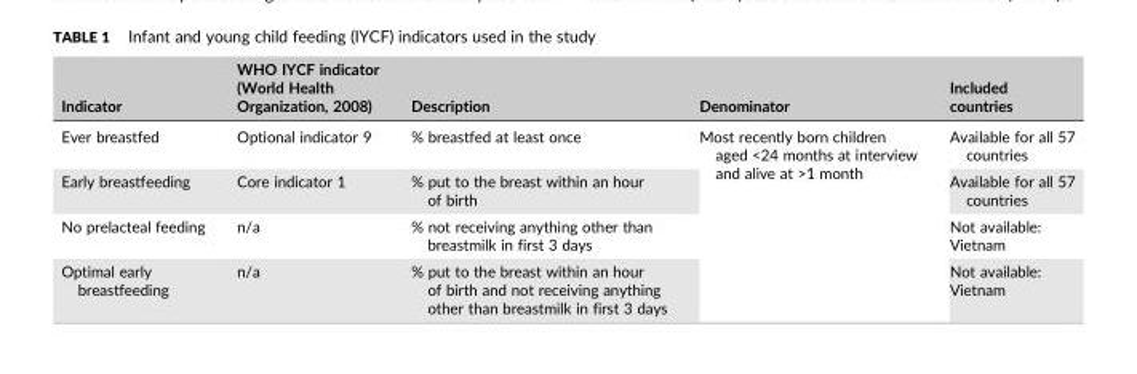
<table><thead><tr><td>Indicator</td><td>WHO IYCF indicator (World Health Organization, 2008)</td><td>Description</td><td>Denominator</td><td>Included countries</td></tr></thead><tbody><tr><td>Ever breastfed</td><td>Optional indicator 9</td><td>% breastfed at least once</td><td rowspan="4">Most recently born children aged &lt;24 months at interview and alive at &gt;1 month</td><td>Available for all 57 countries</td></tr><tr><td>Early breastfeeding</td><td>Core indicator 1</td><td>% put to the breast within an hour of birth</td><td>Available for all 57 countries</td></tr><tr><td>No prelacteal feeding</td><td>n/a</td><td>% not receiving anything other than breastmilk in first 3 days</td><td>Not available: Vietnam</td></tr><tr><td>Optimal early breastfeeding</td><td>n/a</td><td>% put to the breast within an hour of birth and not receiving anything other than breastmilk in first 3 days</td><td>Not available: Vietnam</td></tr></tbody></table>